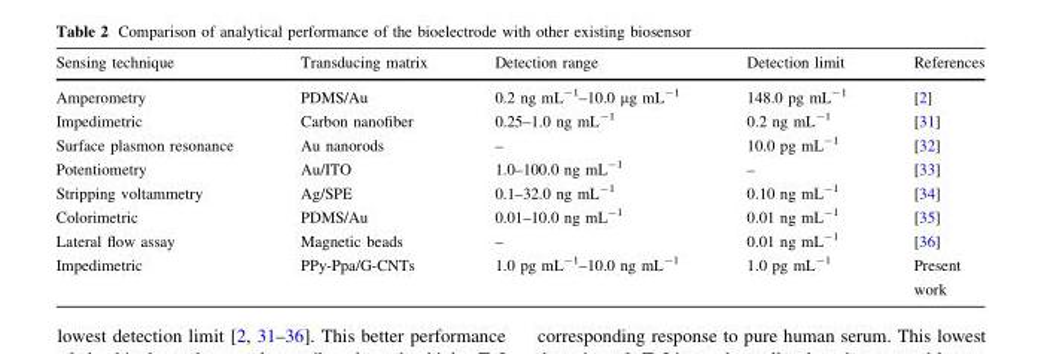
<table><thead><tr><td>Sensing technique</td><td>Transducing matrix</td><td>Detection range</td><td>Detection limit</td><td>References</td></tr></thead><tbody><tr><td>Amperometry</td><td>PDMS/Au</td><td>0.2 ng mL<sup>-1</sup>–10.0 µg mL<sup>-1</sup></td><td>148.0 pg mL<sup>-1</sup></td><td>[2]</td></tr><tr><td>Impedimetric</td><td>Carbon nanofiber</td><td>0.25–1.0 ng mL<sup>-1</sup></td><td>0.2 ng mL<sup>-1</sup></td><td>[31]</td></tr><tr><td>Surface plasmon resonance</td><td>Au nanorods</td><td>–</td><td>10.0 pg mL<sup>-1</sup></td><td>[32]</td></tr><tr><td>Potentiometry</td><td>Au/ITO</td><td>1.0–100.0 ng mL<sup>-1</sup></td><td>–</td><td>[33]</td></tr><tr><td>Stripping voltammetry</td><td>Ag/SPE</td><td>0.1–32.0 ng mL<sup>-1</sup></td><td>0.10 ng mL<sup>-1</sup></td><td>[34]</td></tr><tr><td>Colorimetric</td><td>PDMS/Au</td><td>0.01–10.0 ng mL<sup>-1</sup></td><td>0.01 ng mL<sup>-1</sup></td><td>[35]</td></tr><tr><td>Lateral flow assay</td><td>Magnetic beads</td><td>–</td><td>0.01 ng mL<sup>-1</sup></td><td>[36]</td></tr><tr><td>Impedimetric</td><td>PPy-Ppa/G-CNTs</td><td>1.0 pg mL<sup>-1</sup>–10.0 ng mL<sup>-1</sup></td><td>1.0 pg mL<sup>-1</sup></td><td>Present work</td></tr></tbody></table>